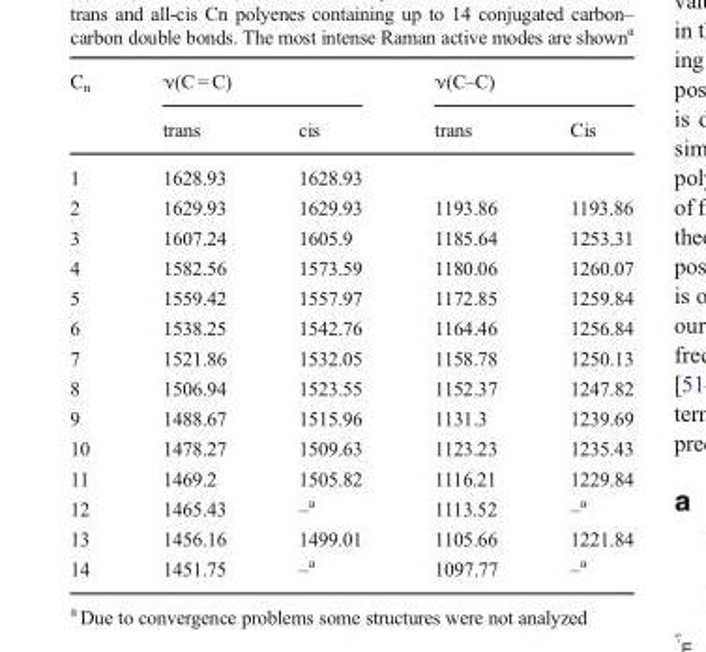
<table><thead><tr><td rowspan="2">C<sub>n</sub></td><td colspan="2">ν(C = C)</td><td colspan="2">ν(C–C)</td></tr><tr><td>trans</td><td>cis</td><td>trans</td><td>Cis</td></tr></thead><tbody><tr><td>1</td><td>1628.93</td><td>1628.93</td><td></td><td></td></tr><tr><td>2</td><td>1629.93</td><td>1629.93</td><td>1193.86</td><td>1193.86</td></tr><tr><td>3</td><td>1607.24</td><td>1605.9</td><td>1185.64</td><td>1253.31</td></tr><tr><td>4</td><td>1582.56</td><td>1573.59</td><td>1180.06</td><td>1260.07</td></tr><tr><td>5</td><td>1559.42</td><td>1557.97</td><td>1172.85</td><td>1259.84</td></tr><tr><td>6</td><td>1538.25</td><td>1542.76</td><td>1164.46</td><td>1256.84</td></tr><tr><td>7</td><td>1521.86</td><td>1532.05</td><td>1158.78</td><td>1250.13</td></tr><tr><td>8</td><td>1506.94</td><td>1523.55</td><td>1152.37</td><td>1247.82</td></tr><tr><td>9</td><td>1488.67</td><td>1515.96</td><td>1131.3</td><td>1239.69</td></tr><tr><td>10</td><td>1478.27</td><td>1509.63</td><td>1123.23</td><td>1235.43</td></tr><tr><td>11</td><td>1469.2</td><td>1505.82</td><td>1116.21</td><td>1229.84</td></tr><tr><td>12</td><td>1465.43</td><td>–<sup>a</sup></td><td>1113.52</td><td>–<sup>a</sup></td></tr><tr><td>13</td><td>1456.16</td><td>1499.01</td><td>1105.66</td><td>1221.84</td></tr><tr><td>14</td><td>1451.75</td><td>–<sup>a</sup></td><td>1097.77</td><td>–<sup>a</sup></td></tr></tbody></table>